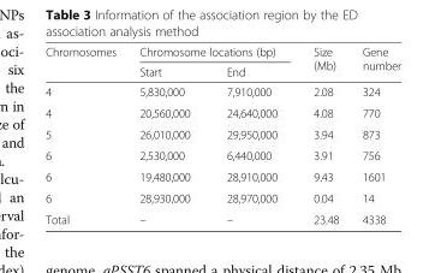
<table><thead><tr><td rowspan="2">Chromosomes</td><td colspan="2">Chromosome locations (bp)</td><td rowspan="2">Size (Mb)</td><td rowspan="2">Gene number</td></tr><tr><td>Start</td><td>End</td></tr></thead><tbody><tr><td>4</td><td>5,830,000</td><td>7,910,000</td><td>2.08</td><td>324</td></tr><tr><td>4</td><td>20,560,000</td><td>24,640,000</td><td>4.08</td><td>770</td></tr><tr><td>5</td><td>26,010,000</td><td>29,950,000</td><td>3.94</td><td>873</td></tr><tr><td>6</td><td>2,530,000</td><td>6,440,000</td><td>3.91</td><td>756</td></tr><tr><td>6</td><td>19,480,000</td><td>28,910,000</td><td>9.43</td><td>1601</td></tr><tr><td>6</td><td>28,930,000</td><td>28,970,000</td><td>0.04</td><td>14</td></tr><tr><td>Total</td><td>–</td><td>–</td><td>23.48</td><td>4338</td></tr></tbody></table>